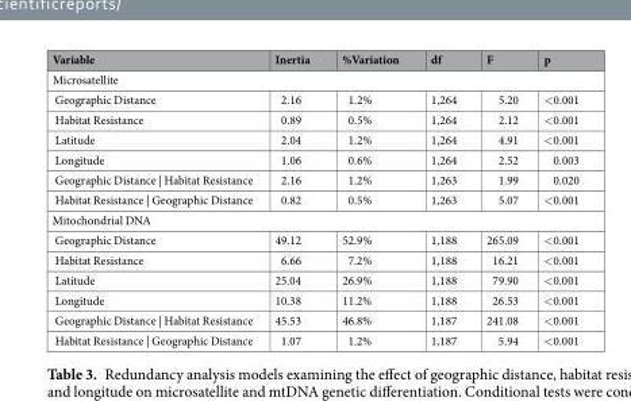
<table><thead><tr><td>Variable</td><td>Inertia</td><td>%Variation</td><td>df</td><td>F</td><td>p</td></tr></thead><tbody><tr><td colspan="6">Microsatellite</td></tr><tr><td>Geographic Distance</td><td>2.16</td><td>1.2%</td><td>1,264</td><td>5.20</td><td>&lt;0.001</td></tr><tr><td>Habitat Resistance</td><td>0.89</td><td>0.5%</td><td>1,264</td><td>2.12</td><td>&lt;0.001</td></tr><tr><td>Latitude</td><td>2.04</td><td>1.2%</td><td>1,264</td><td>4.91</td><td>&lt;0.001</td></tr><tr><td>Longitude</td><td>1.06</td><td>0.6%</td><td>1,264</td><td>2.52</td><td>0.003</td></tr><tr><td>Geographic Distance | Habitat Resistance</td><td>2.16</td><td>1.2%</td><td>1,263</td><td>1.99</td><td>0.020</td></tr><tr><td>Habitat Resistance | Geographic Distance</td><td>0.82</td><td>0.5%</td><td>1,263</td><td>5.07</td><td>&lt;0.001</td></tr><tr><td colspan="6">Mitochondrial DNA</td></tr><tr><td>Geographic Distance</td><td>49.12</td><td>52.9%</td><td>1,188</td><td>265.09</td><td>&lt;0.001</td></tr><tr><td>Habitat Resistance</td><td>6.66</td><td>7.2%</td><td>1,188</td><td>16.21</td><td>&lt;0.001</td></tr><tr><td>Latitude</td><td>25.04</td><td>26.9%</td><td>1,188</td><td>79.90</td><td>&lt;0.001</td></tr><tr><td>Longitude</td><td>10.38</td><td>11.2%</td><td>1,188</td><td>26.53</td><td>&lt;0.001</td></tr><tr><td>Geographic Distance | Habitat Resistance</td><td>45.53</td><td>46.8%</td><td>1,187</td><td>241.08</td><td>&lt;0.001</td></tr><tr><td>Habitat Resistance | Geographic Distance</td><td>1.07</td><td>1.2%</td><td>1,187</td><td>5.94</td><td>&lt;0.001</td></tr></tbody></table>